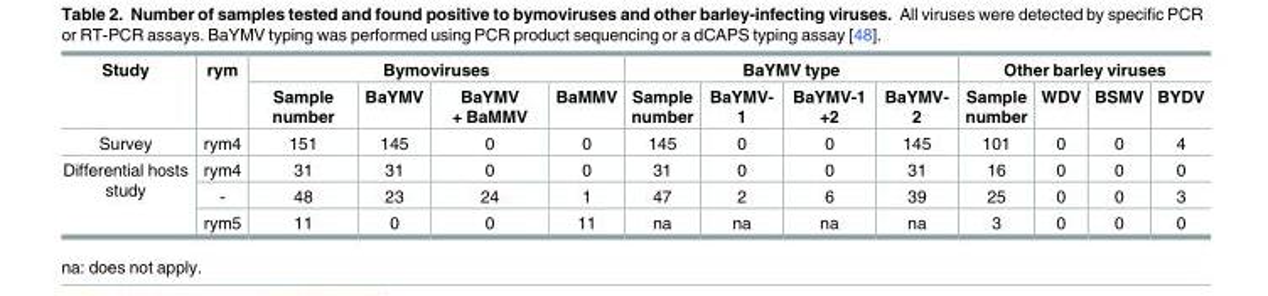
<table><thead><tr><td rowspan="2">Study</td><td rowspan="2">rym</td><td colspan="4">Bymoviruses</td><td colspan="4">BaYMV type</td><td colspan="4">Other barley viruses</td></tr><tr><td>Sample number</td><td>BaYMV</td><td>BaYMV + BaMMV</td><td>BaMMV</td><td>Sample number</td><td>BaYMV- 1</td><td>BaYMV-1 +2</td><td>BaYMV- 2</td><td>Sample number</td><td>WDV</td><td>BSMV</td><td>BYDV</td></tr></thead><tbody><tr><td>Survey</td><td>rym4</td><td>151</td><td>145</td><td>0</td><td>0</td><td>145</td><td>0</td><td>0</td><td>145</td><td>101</td><td>0</td><td>0</td><td>4</td></tr><tr><td rowspan="3">Differential hosts study</td><td>rym4</td><td>31</td><td>31</td><td>0</td><td>0</td><td>31</td><td>0</td><td>0</td><td>31</td><td>16</td><td>0</td><td>0</td><td>0</td></tr><tr><td>-</td><td>48</td><td>23</td><td>24</td><td>1</td><td>47</td><td>2</td><td>6</td><td>39</td><td>25</td><td>0</td><td>0</td><td>3</td></tr><tr><td>rym5</td><td>11</td><td>0</td><td>0</td><td>11</td><td>na</td><td>na</td><td>na</td><td>na</td><td>3</td><td>0</td><td>0</td><td>0</td></tr></tbody></table>